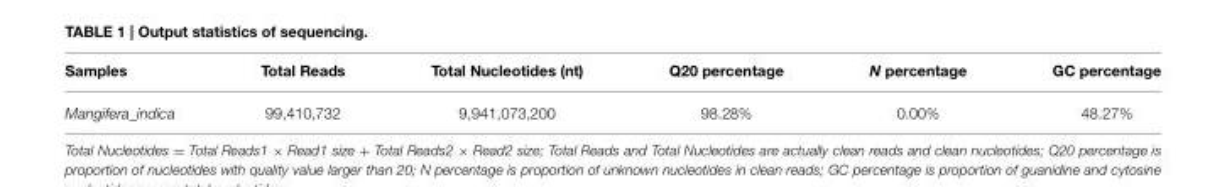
<table><thead><tr><td>Samples</td><td>Total Reads</td><td>Total Nucleotides (nt)</td><td>Q20 percentage</td><td>N percentage</td><td>GC percentage</td></tr></thead><tbody><tr><td>Mangifera_indica</td><td>99,410,732</td><td>9,941,073,200</td><td>98.28%</td><td>0.00%</td><td>48.27%</td></tr></tbody></table>